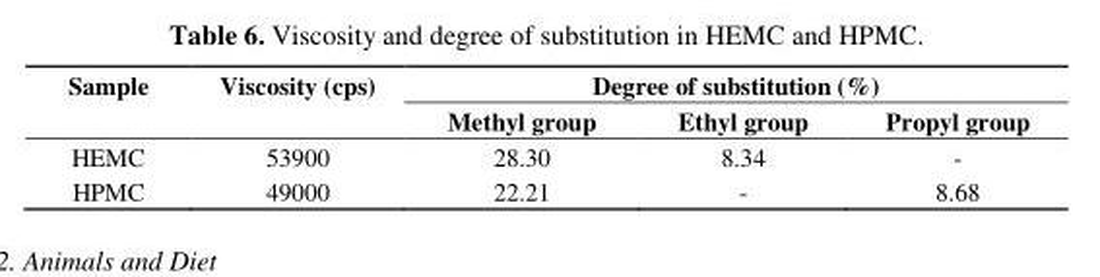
<table><thead><tr><td rowspan="2">Sample</td><td rowspan="2">Viscosity (cps)</td><td colspan="3">Degree of substitution (%)</td></tr><tr><td>Methyl group</td><td>Ethyl group</td><td>Propyl group</td></tr></thead><tbody><tr><td>HEMC</td><td>53900</td><td>28.30</td><td>8.34</td><td>-</td></tr><tr><td>HPMC</td><td>49000</td><td>22.21</td><td>-</td><td>8.68</td></tr></tbody></table>